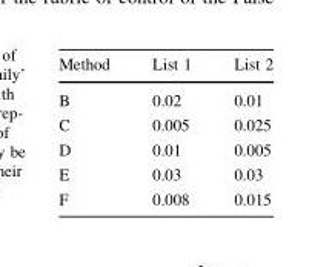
<table><thead><tr><td>Method</td><td>List 1</td><td>List 2</td></tr></thead><tbody><tr><td>B</td><td>0.02</td><td>0.01</td></tr><tr><td>C</td><td>0.005</td><td>0.025</td></tr><tr><td>D</td><td>0.01</td><td>0.005</td></tr><tr><td>E</td><td>0.03</td><td>0.03</td></tr><tr><td>F</td><td>0.008</td><td>0.015</td></tr></tbody></table>